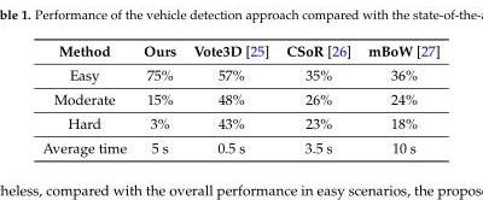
<table><thead><tr><td>Method</td><td>Ours</td><td>Vote3D [25]</td><td>CSoR [26]</td><td>mBoW [27]</td></tr></thead><tbody><tr><td>Easy</td><td>75%</td><td>57%</td><td>35%</td><td>36%</td></tr><tr><td>Moderate</td><td>15%</td><td>48%</td><td>26%</td><td>24%</td></tr><tr><td>Hard</td><td>3%</td><td>43%</td><td>23%</td><td>18%</td></tr><tr><td>Average time</td><td>5 s</td><td>0.5 s</td><td>3.5 s</td><td>10 s</td></tr></tbody></table>